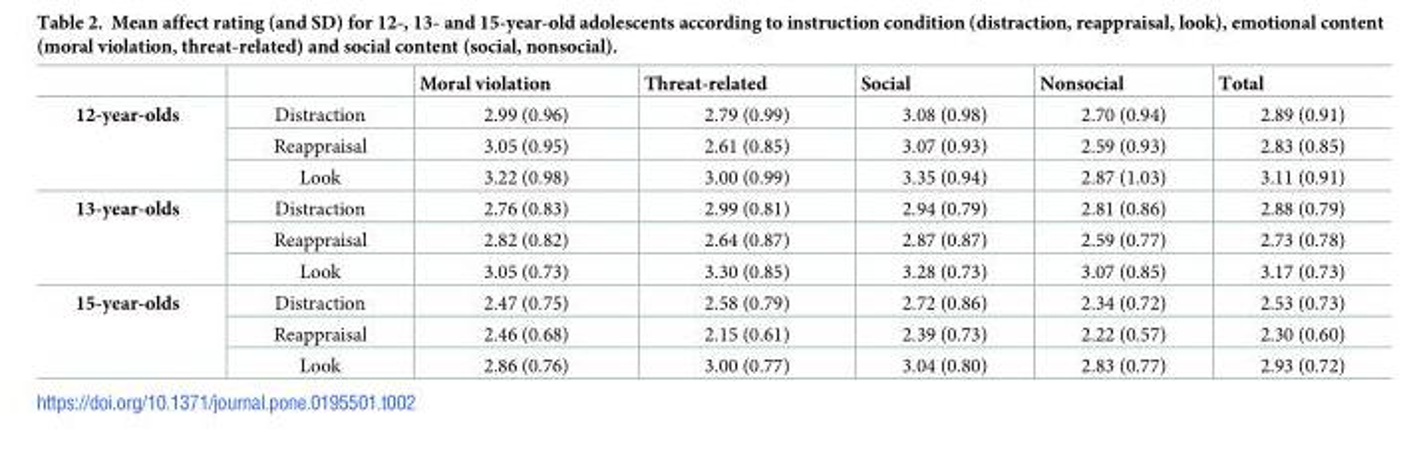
<table><thead><tr><td></td><td></td><td>Moral violation</td><td>Threat-related</td><td>Social</td><td>Nonsocial</td><td>Total</td></tr></thead><tbody><tr><td rowspan="3">12-year-olds</td><td>Distraction</td><td>2.99 (0.96)</td><td>2.79 (0.99)</td><td>3.08 (0.98)</td><td>2.70 (0.94)</td><td>2.89 (0.91)</td></tr><tr><td>Reappraisal</td><td>3.05 (0.95)</td><td>2.61 (0.85)</td><td>3.07 (0.93)</td><td>2.59 (0.93)</td><td>2.83 (0.85)</td></tr><tr><td>Look</td><td>3.22 (0.98)</td><td>3.00 (0.99)</td><td>3.35 (0.94)</td><td>2.87 (1.03)</td><td>3.11 (0.91)</td></tr><tr><td rowspan="3">13-year-olds</td><td>Distraction</td><td>2.76 (0.83)</td><td>2.99 (0.81)</td><td>2.94 (0.79)</td><td>2.81 (0.86)</td><td>2.88 (0.79)</td></tr><tr><td>Reappraisal</td><td>2.82 (0.82)</td><td>2.64 (0.87)</td><td>2.87 (0.87)</td><td>2.59 (0.77)</td><td>2.73 (0.78)</td></tr><tr><td>Look</td><td>3.05 (0.73)</td><td>3.30 (0.85)</td><td>3.28 (0.73)</td><td>3.07 (0.85)</td><td>3.17 (0.73)</td></tr><tr><td rowspan="3">15-year-olds</td><td>Distraction</td><td>2.47 (0.75)</td><td>2.58 (0.79)</td><td>2.72 (0.86)</td><td>2.34 (0.72)</td><td>2.53 (0.73)</td></tr><tr><td>Reappraisal</td><td>2.46 (0.68)</td><td>2.15 (0.61)</td><td>2.39 (0.73)</td><td>2.22 (0.57)</td><td>2.30 (0.60)</td></tr><tr><td>Look</td><td>2.86 (0.76)</td><td>3.00 (0.77)</td><td>3.04 (0.80)</td><td>2.83 (0.77)</td><td>2.93 (0.72)</td></tr></tbody></table>